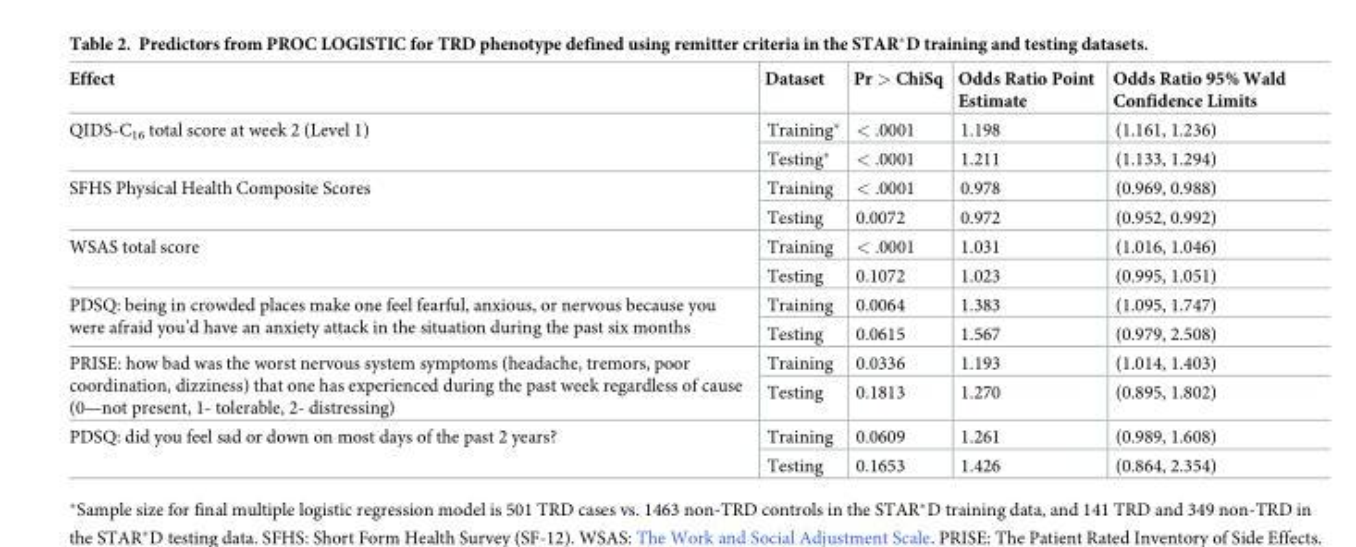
<table><thead><tr><td>Effect</td><td>Dataset</td><td>Pr &gt; ChiSq</td><td>Odds Ratio Point Estimate</td><td>Odds Ratio 95% Wald Confidence Limits</td></tr></thead><tbody><tr><td rowspan="2">QIDS-C<sub>16</sub> total score at week 2 (Level 1)</td><td>Training*</td><td>&lt; .0001</td><td>1.198</td><td>(1.161, 1.236)</td></tr><tr><td>Testing*</td><td>&lt; .0001</td><td>1.211</td><td>(1.133, 1.294)</td></tr><tr><td rowspan="2">SFHS Physical Health Composite Scores</td><td>Training</td><td>&lt; .0001</td><td>0.978</td><td>(0.969, 0.988)</td></tr><tr><td>Testing</td><td>0.0072</td><td>0.972</td><td>(0.952, 0.992)</td></tr><tr><td rowspan="2">WSAS total score</td><td>Training</td><td>&lt; .0001</td><td>1.031</td><td>(1.016, 1.046)</td></tr><tr><td>Testing</td><td>0.1072</td><td>1.023</td><td>(0.995, 1.051)</td></tr><tr><td rowspan="2">PDSQ: being in crowded places make one feel fearful, anxious, or nervous because you were afraid you’d have an anxiety attack in the situation during the past six months</td><td>Training</td><td>0.0064</td><td>1.383</td><td>(1.095, 1.747)</td></tr><tr><td>Testing</td><td>0.0615</td><td>1.567</td><td>(0.979, 2.508)</td></tr><tr><td rowspan="2">PRISE: how bad was the worst nervous system symptoms (headache, tremors, poor coordination, dizziness) that one has experienced during the past week regardless of cause (0—not present, 1- tolerable, 2- distressing)</td><td>Training</td><td>0.0336</td><td>1.193</td><td>(1.014, 1.403)</td></tr><tr><td>Testing</td><td>0.1813</td><td>1.270</td><td>(0.895, 1.802)</td></tr><tr><td rowspan="2">PDSQ: did you feel sad or down on most days of the past 2 years?</td><td>Training</td><td>0.0609</td><td>1.261</td><td>(0.989, 1.608)</td></tr><tr><td>Testing</td><td>0.1653</td><td>1.426</td><td>(0.864, 2.354)</td></tr></tbody></table>